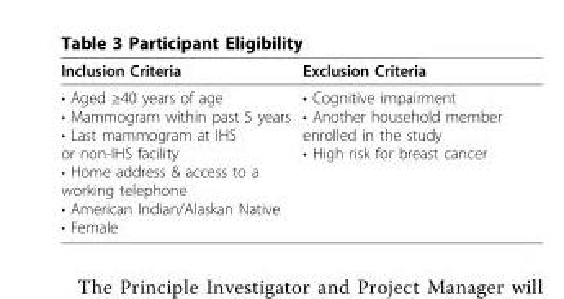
<table><thead><tr><td>Inclusion Criteria</td><td>Exclusion Criteria</td></tr></thead><tbody><tr><td>• Aged ≥40 years of age • Mammogram within past 5 years • Last mammogram at IHS or non-IHS facility • Home address &amp; access to a working telephone • American Indian/Alaskan Native • Female</td><td>• Cognitive impairment • Another household member enrolled in the study • High risk for breast cancer</td></tr></tbody></table>